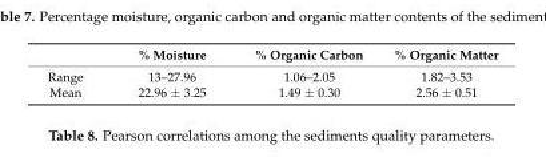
<table><thead><tr><td></td><td>% Moisture</td><td>% Organic Carbon</td><td>% Organic Matter</td></tr></thead><tbody><tr><td>Range</td><td>13–27.96</td><td>1.06–2.05</td><td>1.82–3.53</td></tr><tr><td>Mean</td><td>22.96 ± 3.25</td><td>1.49 ± 0.30</td><td>2.56 ± 0.51</td></tr></tbody></table>